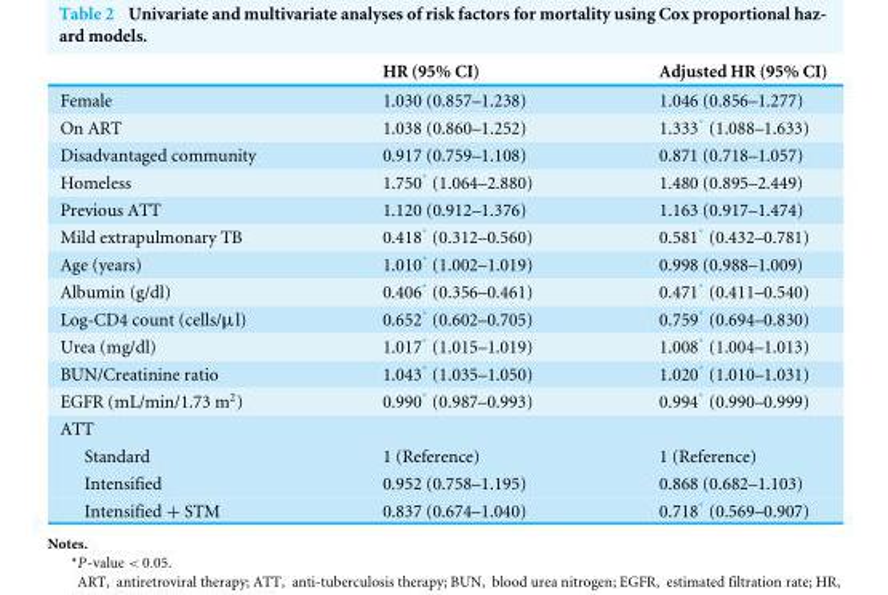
<table><thead><tr><td></td><td>HR (95% CI)</td><td>Adjusted HR (95% CI)</td></tr></thead><tbody><tr><td>Female</td><td>1.030 (0.857–1.238)</td><td>1.046 (0.856–1.277)</td></tr><tr><td>On ART</td><td>1.038 (0.860–1.252)</td><td>1.333* (1.088–1.633)</td></tr><tr><td>Disadvantaged community</td><td>0.917 (0.759–1.108)</td><td>0.871 (0.718–1.057)</td></tr><tr><td>Homeless</td><td>1.750* (1.064–2.880)</td><td>1.480 (0.895–2.449)</td></tr><tr><td>Previous ATT</td><td>1.120 (0.912–1.376)</td><td>1.163 (0.917–1.474)</td></tr><tr><td>Mild extrapulmonary TB</td><td>0.418* (0.312–0.560)</td><td>0.581* (0.432–0.781)</td></tr><tr><td>Age (years)</td><td>1.010* (1.002–1.019)</td><td>0.998 (0.988–1.009)</td></tr><tr><td>Albumin (g/dl)</td><td>0.406* (0.356–0.461)</td><td>0.471* (0.411–0.540)</td></tr><tr><td>Log-CD4 count (cells/µl)</td><td>0.652* (0.602–0.705)</td><td>0.759* (0.694–0.830)</td></tr><tr><td>Urea (mg/dl)</td><td>1.017* (1.015–1.019)</td><td>1.008* (1.004–1.013)</td></tr><tr><td>BUN/Creatinine ratio</td><td>1.043* (1.035–1.050)</td><td>1.020* (1.010–1.031)</td></tr><tr><td>EGFR (mL/min/1.73 m<sup>2</sup>)</td><td>0.990* (0.987–0.993)</td><td>0.994* (0.990–0.999)</td></tr><tr><td colspan="3">ATT</td></tr><tr><td>Standard</td><td>1 (Reference)</td><td>1 (Reference)</td></tr><tr><td>Intensified</td><td>0.952 (0.758–1.195)</td><td>0.868 (0.682–1.103)</td></tr><tr><td>Intensified + STM</td><td>0.837 (0.674–1.040)</td><td>0.718* (0.569–0.907)</td></tr></tbody></table>